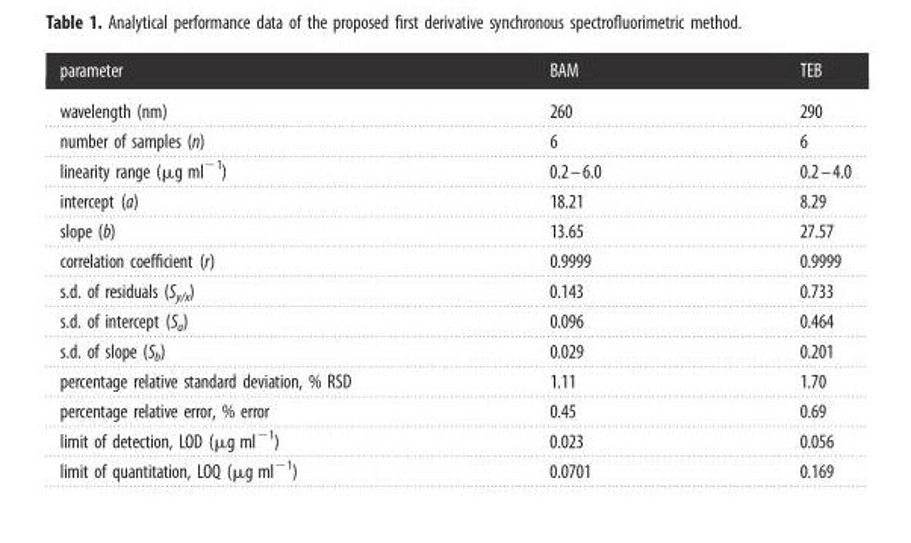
<table><thead><tr><td>parameter</td><td>BAM</td><td>TEB</td></tr></thead><tbody><tr><td>wavelength (nm)</td><td>260</td><td>290</td></tr><tr><td>number of samples (n)</td><td>6</td><td>6</td></tr><tr><td>linearity range (µg ml<sup>−1</sup>)</td><td>0.2–6.0</td><td>0.2–4.0</td></tr><tr><td>intercept (a)</td><td>18.21</td><td>8.29</td></tr><tr><td>slope (b)</td><td>13.65</td><td>27.57</td></tr><tr><td>correlation coefficient (r)</td><td>0.9999</td><td>0.9999</td></tr><tr><td>s.d. of residuals (S<sub>y/x</sub>)</td><td>0.143</td><td>0.733</td></tr><tr><td>s.d. of intercept (S<sub>a</sub>)</td><td>0.096</td><td>0.464</td></tr><tr><td>s.d. of slope (S<sub>b</sub>)</td><td>0.029</td><td>0.201</td></tr><tr><td>percentage relative standard deviation, % RSD</td><td>1.11</td><td>1.70</td></tr><tr><td>percentage relative error, % error</td><td>0.45</td><td>0.69</td></tr><tr><td>limit of detection, LOD (µg ml<sup>−1</sup>)</td><td>0.023</td><td>0.056</td></tr><tr><td>limit of quantitation, LOQ (µg ml<sup>−1</sup>)</td><td>0.0701</td><td>0.169</td></tr></tbody></table>